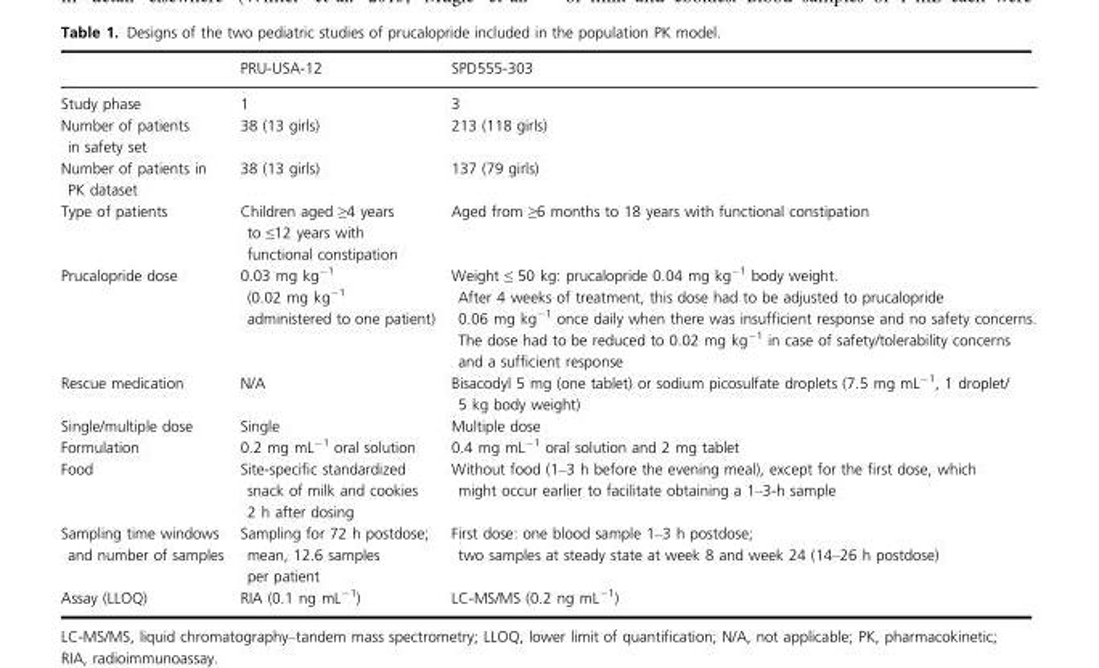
<table><thead><tr><td></td><td>PRU-USA-12</td><td>SPD555-303</td></tr></thead><tbody><tr><td>Study phase</td><td>1</td><td>3</td></tr><tr><td>Number of patients in safety set</td><td>38 (13 girls)</td><td>213 (118 girls)</td></tr><tr><td>Number of patients in PK dataset</td><td>38 (13 girls)</td><td>137 (79 girls)</td></tr><tr><td>Type of patients</td><td>Children aged ≥4 years to ≤12 years with functional constipation</td><td>Aged from ≥6 months to 18 years with functional constipation</td></tr><tr><td>Prucalopride dose</td><td>0.03 mg kg<sup>−1</sup> (0.02 mg kg<sup>−1</sup> administered to one patient)</td><td>Weight ≤ 50 kg: prucalopride 0.04 mg kg<sup>−1</sup> body weight. After 4 weeks of treatment, this dose had to be adjusted to prucalopride 0.06 mg kg<sup>−1</sup> once daily when there was insufficient response and no safety concerns. The dose had to be reduced to 0.02 mg kg<sup>−1</sup> in case of safety/tolerability concerns and a sufficient response</td></tr><tr><td>Rescue medication</td><td>N/A</td><td>Bisacodyl 5 mg (one tablet) or sodium picosulfate droplets (7.5 mg mL<sup>−1</sup>, 1 droplet/ 5 kg body weight)</td></tr><tr><td>Single/multiple dose</td><td>Single</td><td>Multiple dose</td></tr><tr><td>Formulation</td><td>0.2 mg mL<sup>−1</sup> oral solution</td><td>0.4 mg mL<sup>−1</sup> oral solution and 2 mg tablet</td></tr><tr><td>Food</td><td>Site-specific standardized snack of milk and cookies 2 h after dosing</td><td>Without food (1–3 h before the evening meal), except for the first dose, which might occur earlier to facilitate obtaining a 1–3-h sample</td></tr><tr><td>Sampling time windows and number of samples</td><td>Sampling for 72 h postdose; mean, 12.6 samples per patient</td><td>First dose: one blood sample 1–3 h postdose; two samples at steady state at week 8 and week 24 (14–26 h postdose)</td></tr><tr><td>Assay (LLOQ)</td><td>RIA (0.1 ng mL<sup>−1</sup>)</td><td>LC-MS/MS (0.2 ng mL<sup>−1</sup>)</td></tr></tbody></table>